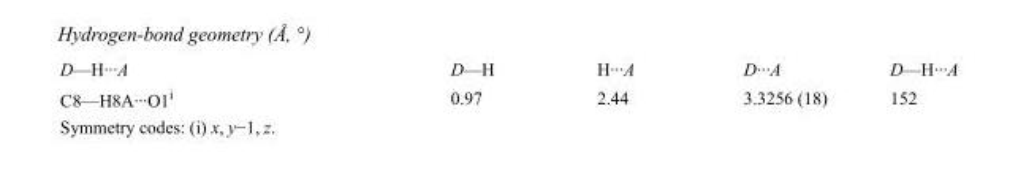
<table><tbody><tr><td>D—H···A</td><td>D—H</td><td>H···A</td><td>D···A</td><td>D—H···A</td></tr><tr><td>C8—H8A···O1<sup>i</sup></td><td>0.97</td><td>2.44</td><td>3.3256 (18)</td><td>152</td></tr></tbody></table>